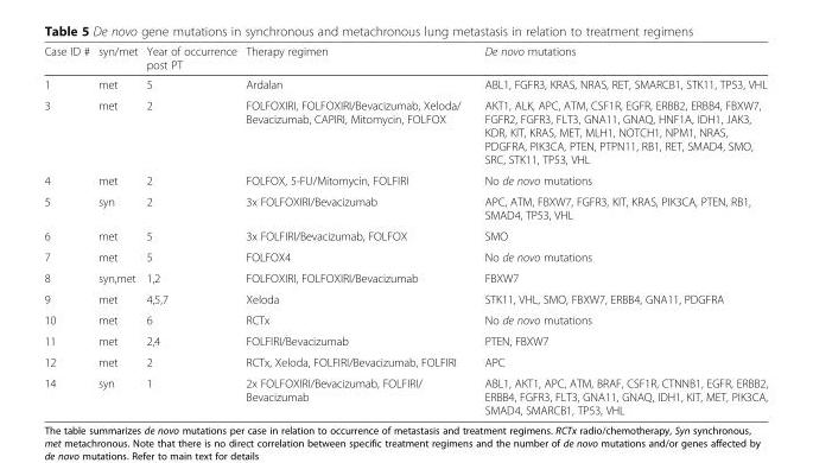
<table><thead><tr><td>Case ID #</td><td>syn/met</td><td>Year of occurrence post PT</td><td>Therapy regimen</td><td>De novo mutations</td></tr></thead><tbody><tr><td>1</td><td>met</td><td>5</td><td>Ardalan</td><td>ABL1, FGFR3, KRAS, NRAS, RET, SMARCB1, STK11, TP53, VHL</td></tr><tr><td>3</td><td>met</td><td>2</td><td>FOLFOXIRI, FOLFOXIRI/Bevacizumab, Xeloda/ Bevacizumab, CAPIRI, Mitomycin, FOLFOX</td><td>AKT1, ALK, APC, ATM, CSF1R, EGFR, ERBB2, ERBB4, FBXW7, FGFR2, FGFR3, FLT3, GNA11, GNAQ, HNF1A, IDH1, JAK3, KDR, KIT, KRAS, MET, MLH1, NOTCH1, NPM1, NRAS, PDGFRA, PIK3CA, PTEN, PTPN11, RB1, RET, SMAD4, SMO, SRC, STK11, TP53, VHL</td></tr><tr><td>4</td><td>met</td><td>2</td><td>FOLFOX, 5-FU/Mitomycin, FOLFIRI</td><td>No de novo mutations</td></tr><tr><td>5</td><td>syn</td><td>2</td><td>3x FOLFOXIRI/Bevacizumab</td><td>APC, ATM, FBXW7, FGFR3, KIT, KRAS, PIK3CA, PTEN, RB1, SMAD4, TP53, VHL</td></tr><tr><td>6</td><td>met</td><td>5</td><td>3x FOLFIRI/Bevacizumab, FOLFOX</td><td>SMO</td></tr><tr><td>7</td><td>met</td><td>5</td><td>FOLFOX4</td><td>No de novo mutations</td></tr><tr><td>8</td><td>syn,met</td><td>1,2</td><td>FOLFOXIRI, FOLFOXIRI/Bevacizumab</td><td>FBXW7</td></tr><tr><td>9</td><td>met</td><td>4,5,7</td><td>Xeloda</td><td>STK11, VHL, SMO, FBXW7, ERBB4, GNA11, PDGFRA</td></tr><tr><td>10</td><td>met</td><td>6</td><td>RCTx</td><td>No de novo mutations</td></tr><tr><td>11</td><td>met</td><td>2,4</td><td>FOLFIRI/Bevacizumab</td><td>PTEN, FBXW7</td></tr><tr><td>12</td><td>met</td><td>2</td><td>RCTx, Xeloda, FOLFIRI/Bevacizumab, FOLFIRI</td><td>APC</td></tr><tr><td>14</td><td>syn</td><td>1</td><td>2x FOLFOXIRI/Bevacizumab, FOLFIRI/ Bevacizumab</td><td>ABL1, AKT1, APC, ATM, BRAF, CSF1R, CTNNB1, EGFR, ERBB2, ERBB4, FGFR3, FLT3, GNA11, GNAQ, IDH1, KIT, MET, PIK3CA, SMAD4, SMARCB1, TP53, VHL</td></tr></tbody></table>